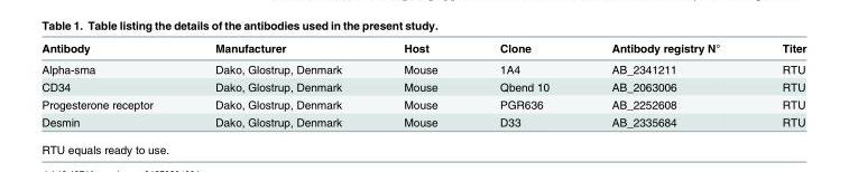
<table><thead><tr><td>Antibody</td><td>Manufacturer</td><td>Host</td><td>Clone</td><td>Antibody registry N°</td><td>Titer</td></tr></thead><tbody><tr><td>Alpha-sma</td><td>Dako, Glostrup, Denmark</td><td>Mouse</td><td>1A4</td><td>AB_2341211</td><td>RTU</td></tr><tr><td>CD34</td><td>Dako, Glostrup, Denmark</td><td>Mouse</td><td>Qbend 10</td><td>AB_2063006</td><td>RTU</td></tr><tr><td>Progesterone receptor</td><td>Dako, Glostrup, Denmark</td><td>Mouse</td><td>PGR636</td><td>AB_2252608</td><td>RTU</td></tr><tr><td>Desmin</td><td>Dako, Glostrup, Denmark</td><td>Mouse</td><td>D33</td><td>AB_2335684</td><td>RTU</td></tr></tbody></table>